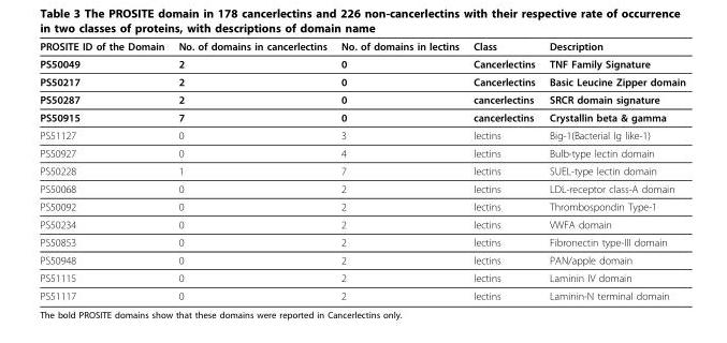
<table><thead><tr><td>PROSITE ID of the Domain</td><td>No. of domains in cancerlectins</td><td>No. of domains in lectins</td><td>Class</td><td>Description</td></tr></thead><tbody><tr><td>PS50049</td><td>2</td><td>0</td><td>Cancerlectins</td><td>TNF Family Signature</td></tr><tr><td>PS50217</td><td>2</td><td>0</td><td>Cancerlectins</td><td>Basic Leucine Zipper domain</td></tr><tr><td>PS50287</td><td>2</td><td>0</td><td>cancerlectins</td><td>SRCR domain signature</td></tr><tr><td>PS50915</td><td>7</td><td>0</td><td>cancerlectins</td><td>Crystallin beta &amp; gamma</td></tr><tr><td>PS51127</td><td>0</td><td>3</td><td>lectins</td><td>Big-1(Bacterial Ig like-1)</td></tr><tr><td>PS50927</td><td>0</td><td>4</td><td>lectins</td><td>Bulb-type lectin domain</td></tr><tr><td>PS50228</td><td>1</td><td>7</td><td>lectins</td><td>SUEL-type lectin domain</td></tr><tr><td>PS50068</td><td>0</td><td>2</td><td>lectins</td><td>LDL-receptor class-A domain</td></tr><tr><td>PS50092</td><td>0</td><td>2</td><td>lectins</td><td>Thrombospondin Type-1</td></tr><tr><td>PS50234</td><td>0</td><td>2</td><td>lectins</td><td>VWFA domain</td></tr><tr><td>PS50853</td><td>0</td><td>2</td><td>lectins</td><td>Fibronectin type-III domain</td></tr><tr><td>PS50948</td><td>0</td><td>2</td><td>lectins</td><td>PAN/apple domain</td></tr><tr><td>PS51115</td><td>0</td><td>2</td><td>lectins</td><td>Laminin IV domain</td></tr><tr><td>PS51117</td><td>0</td><td>2</td><td>lectins</td><td>Laminin-N terminal domain</td></tr></tbody></table>